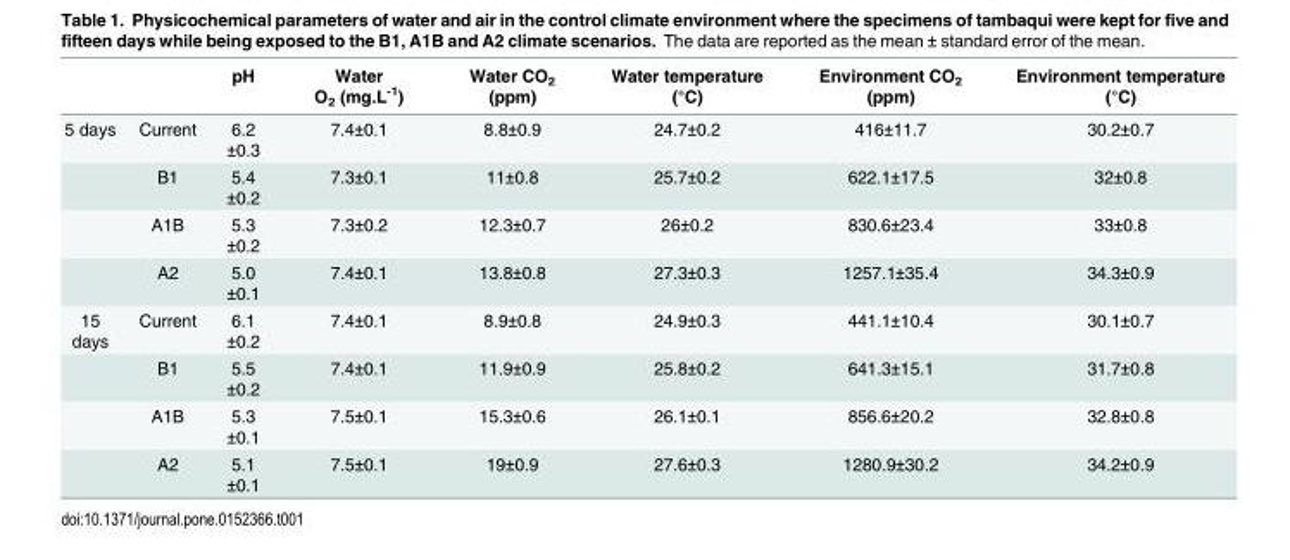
<table><thead><tr><td></td><td></td><td>pH</td><td>Water O<sub>2</sub> (mg.L<sup>-1</sup>)</td><td>Water CO<sub>2</sub> (ppm)</td><td>Water temperature (°C)</td><td>Environment CO<sub>2</sub> (ppm)</td><td>Environment temperature (°C)</td></tr></thead><tbody><tr><td rowspan="4">5 days</td><td>Current</td><td>6.2 ±0.3</td><td>7.4±0.1</td><td>8.8±0.9</td><td>24.7±0.2</td><td>416±11.7</td><td>30.2±0.7</td></tr><tr><td>B1</td><td>5.4 ±0.2</td><td>7.3±0.1</td><td>11±0.8</td><td>25.7±0.2</td><td>622.1±17.5</td><td>32±0.8</td></tr><tr><td>A1B</td><td>5.3 ±0.2</td><td>7.3±0.2</td><td>12.3±0.7</td><td>26±0.2</td><td>830.6±23.4</td><td>33±0.8</td></tr><tr><td>A2</td><td>5.0 ±0.1</td><td>7.4±0.1</td><td>13.8±0.8</td><td>27.3±0.3</td><td>1257.1±35.4</td><td>34.3±0.9</td></tr><tr><td rowspan="4">15 days</td><td>Current</td><td>6.1 ±0.2</td><td>7.4±0.1</td><td>8.9±0.8</td><td>24.9±0.3</td><td>441.1±10.4</td><td>30.1±0.7</td></tr><tr><td>B1</td><td>5.5 ±0.2</td><td>7.4±0.1</td><td>11.9±0.9</td><td>25.8±0.2</td><td>641.3±15.1</td><td>31.7±0.8</td></tr><tr><td>A1B</td><td>5.3 ±0.1</td><td>7.5±0.1</td><td>15.3±0.6</td><td>26.1±0.1</td><td>856.6±20.2</td><td>32.8±0.8</td></tr><tr><td>A2</td><td>5.1 ±0.1</td><td>7.5±0.1</td><td>19±0.9</td><td>27.6±0.3</td><td>1280.9±30.2</td><td>34.2±0.9</td></tr></tbody></table>